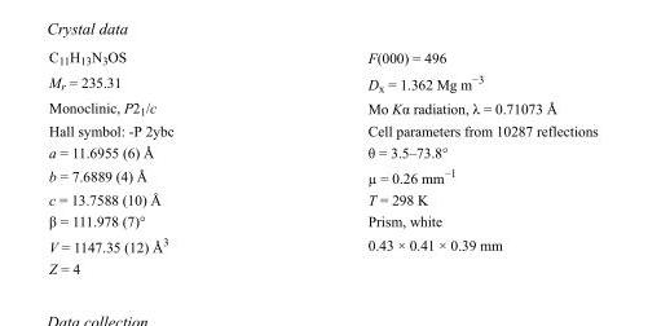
<table><tbody><tr><td>C<sub>11</sub>H<sub>13</sub>N<sub>3</sub>OS</td><td>F(000) = 496</td></tr><tr><td>M<sub>r</sub> = 235.31</td><td>D<sub>x</sub> = 1.362 Mg m<sup>−3</sup></td></tr><tr><td>Monoclinic, P2<sub>1</sub>/c</td><td>Mo Kα radiation, λ = 0.71073 Å</td></tr><tr><td>Hall symbol: -P 2ybc</td><td>Cell parameters from 10287 reflections</td></tr><tr><td>a = 11.6955 (6) Å</td><td>θ = 3.5–73.8°</td></tr><tr><td>b = 7.6889 (4) Å</td><td>µ = 0.26 mm<sup>−1</sup></td></tr><tr><td>c = 13.7588 (10) Å</td><td>T = 298 K</td></tr><tr><td>β = 111.978 (7)°</td><td>Prism, white</td></tr><tr><td>V = 1147.35 (12) Å<sup>3</sup></td><td>0.43 × 0.41 × 0.39 mm</td></tr><tr><td>Z = 4</td><td></td></tr></tbody></table>